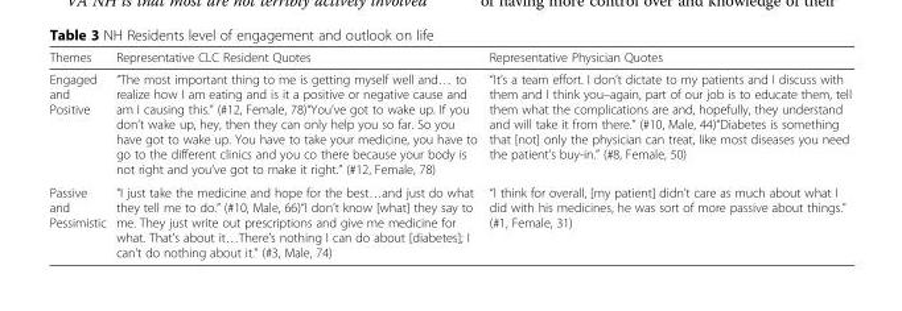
<table><thead><tr><td>Themes</td><td>Representative CLC Resident Quotes</td><td>Representative Physician Quotes</td></tr></thead><tbody><tr><td>Engaged and Positive</td><td>“The most important thing to me is getting myself well and… to realize how I am eating and is it a positive or negative cause and am I causing this.” (#12, Female, 78)“You’ve got to wake up. If you don’t wake up, hey, then they can only help you so far. So you have got to wake up. You have to take your medicine, you have to go to the different clinics and you co there because your body is not right and you’ve got to make it right.” (#12, Female, 78)</td><td>“It’s a team effort. I don’t dictate to my patients and I discuss with them and I think you–again, part of our job is to educate them, tell them what the complications are and, hopefully, they understand and will take it from there.” (#10, Male, 44)“Diabetes is something that [not] only the physician can treat, like most diseases you need the patient’s buy-in.” (#8, Female, 50)</td></tr><tr><td>Passive and Pessimistic</td><td>“I just take the medicine and hope for the best…and just do what they tell me to do.” (#10, Male, 66)“I don’t know [what] they say to me. They just write out prescriptions and give me medicine for what. That’s about it…There’s nothing I can do about [diabetes]; I can’t do nothing about it.” (#3, Male, 74)</td><td>“I think for overall, [my patient] didn’t care as much about what I did with his medicines, he was sort of more passive about things.” (#1, Female, 31)</td></tr></tbody></table>